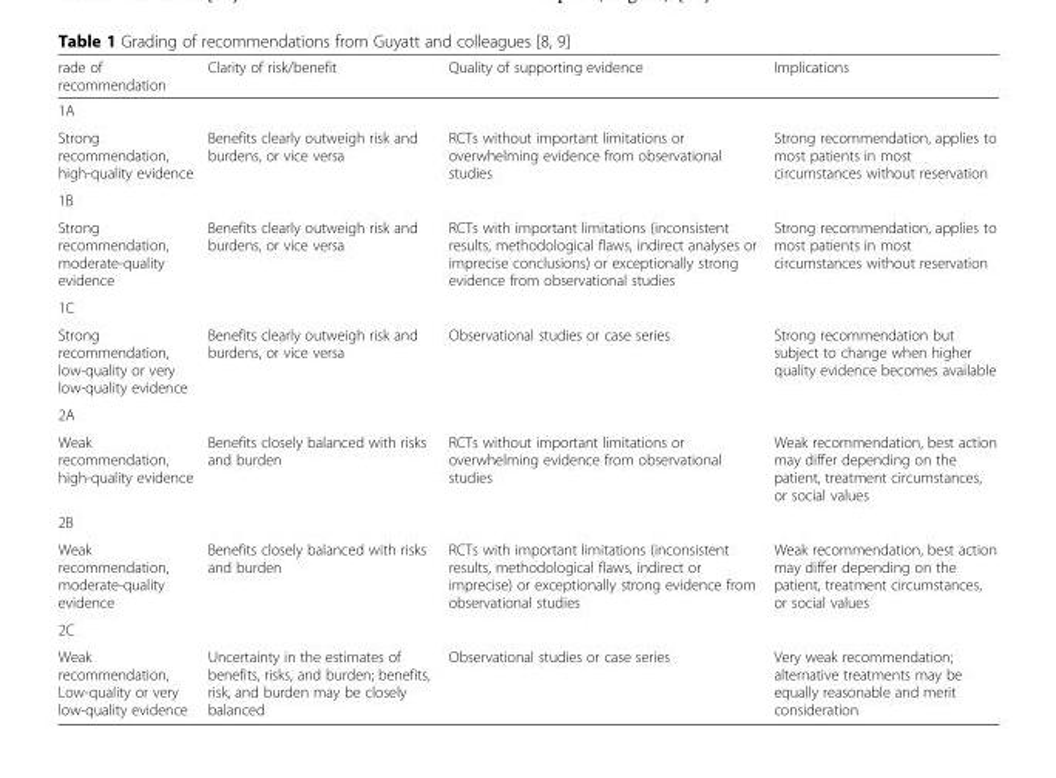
<table><thead><tr><td>rade of recommendation</td><td>Clarity of risk/benefit</td><td>Quality of supporting evidence</td><td>Implications</td></tr></thead><tbody><tr><td colspan="4">1A</td></tr><tr><td>Strong recommendation, high-quality evidence</td><td>Benefits clearly outweigh risk and burdens, or vice versa</td><td>RCTs without important limitations or overwhelming evidence from observational studies</td><td>Strong recommendation, applies to most patients in most circumstances without reservation</td></tr><tr><td colspan="4">1B</td></tr><tr><td>Strong recommendation, moderate-quality evidence</td><td>Benefits clearly outweigh risk and burdens, or vice versa</td><td>RCTs with important limitations (inconsistent results, methodological flaws, indirect analyses or imprecise conclusions) or exceptionally strong evidence from observational studies</td><td>Strong recommendation, applies to most patients in most circumstances without reservation</td></tr><tr><td colspan="4">1C</td></tr><tr><td>Strong recommendation, low-quality or very low-quality evidence</td><td>Benefits clearly outweigh risk and burdens, or vice versa</td><td>Observational studies or case series</td><td>Strong recommendation but subject to change when higher quality evidence becomes available</td></tr><tr><td colspan="4">2A</td></tr><tr><td>Weak recommendation, high-quality evidence</td><td>Benefits closely balanced with risks and burden</td><td>RCTs without important limitations or overwhelming evidence from observational studies</td><td>Weak recommendation, best action may differ depending on the patient, treatment circumstances, or social values</td></tr><tr><td colspan="4">2B</td></tr><tr><td>Weak recommendation, moderate-quality evidence</td><td>Benefits closely balanced with risks and burden</td><td>RCTs with important limitations (inconsistent results, methodological flaws, indirect or imprecise) or exceptionally strong evidence from observational studies</td><td>Weak recommendation, best action may differ depending on the patient, treatment circumstances, or social values</td></tr><tr><td colspan="4">2C</td></tr><tr><td>Weak recommendation, Low-quality or very low-quality evidence</td><td>Uncertainty in the estimates of benefits, risks, and burden; benefits, risk, and burden may be closely balanced</td><td>Observational studies or case series</td><td>Very weak recommendation; alternative treatments may be equally reasonable and merit consideration</td></tr></tbody></table>